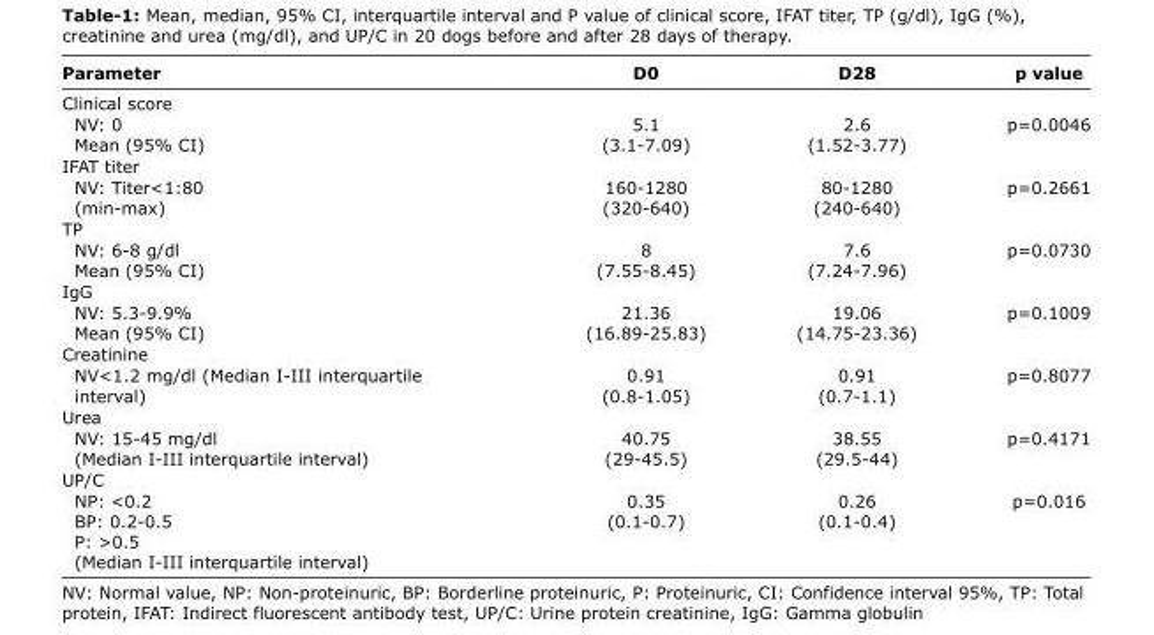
<table><thead><tr><td>Parameter</td><td>D0</td><td>D28</td><td>p value</td></tr></thead><tbody><tr><td colspan="4">Clinical score</td></tr><tr><td>NV: 0 Mean (95% CI)</td><td>5.1 (3.1-7.09)</td><td>2.6 (1.52-3.77)</td><td>p=0.0046</td></tr><tr><td colspan="4">IFAT titer</td></tr><tr><td>NV: Titer&lt;1:80 (min-max)</td><td>160-1280 (320-640)</td><td>80-1280 (240-640)</td><td>p=0.2661</td></tr><tr><td colspan="4">TP</td></tr><tr><td>NV: 6-8 g/dl Mean (95% CI)</td><td>8 (7.55-8.45)</td><td>7.6 (7.24-7.96)</td><td>p=0.0730</td></tr><tr><td colspan="4">IgG</td></tr><tr><td>NV: 5.3-9.9% Mean (95% CI)</td><td>21.36 (16.89-25.83)</td><td>19.06 (14.75-23.36)</td><td>p=0.1009</td></tr><tr><td colspan="4">Creatinine</td></tr><tr><td>NV&lt;1.2 mg/dl (Median I-III interquartile interval)</td><td>0.91 (0.8-1.05)</td><td>0.91 (0.7-1.1)</td><td>p=0.8077</td></tr><tr><td colspan="4">Urea</td></tr><tr><td>NV: 15-45 mg/dl (Median I-III interquartile interval)</td><td>40.75 (29-45.5)</td><td>38.55 (29.5-44)</td><td>p=0.4171</td></tr><tr><td colspan="4">UP/C</td></tr><tr><td>NP: &lt;0.2 BP: 0.2-0.5 P: &gt;0.5 (Median I-III interquartile interval)</td><td>0.35 (0.1-0.7)</td><td>0.26 (0.1-0.4)</td><td>p=0.016</td></tr></tbody></table>